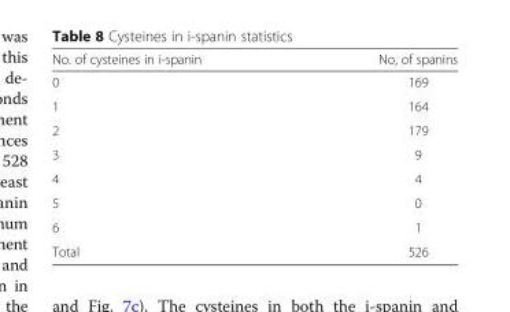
<table><thead><tr><td>No. of cysteines in i-spanin</td><td>No, of spanins</td></tr></thead><tbody><tr><td>0</td><td>169</td></tr><tr><td>1</td><td>164</td></tr><tr><td>2</td><td>179</td></tr><tr><td>3</td><td>9</td></tr><tr><td>4</td><td>4</td></tr><tr><td>5</td><td>0</td></tr><tr><td>6</td><td>1</td></tr><tr><td>Total</td><td>526</td></tr></tbody></table>